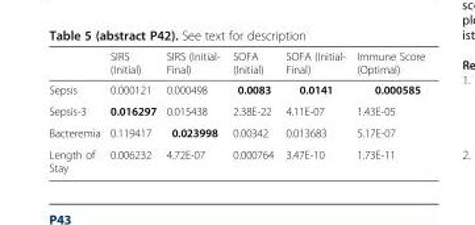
<table><thead><tr><td></td><td>SIRS (Initial)</td><td>SIRS (Initial- Final)</td><td>SOFA (Initial)</td><td>SOFA (Initial- Final)</td><td>Immune Score (Optimal)</td></tr></thead><tbody><tr><td>Sepsis</td><td>0.000121</td><td>0.000498</td><td>0.0083</td><td>0.0141</td><td>0.000585</td></tr><tr><td>Sepsis-3</td><td>0.016297</td><td>0.015438</td><td>2.38E-22</td><td>4.11E-07</td><td>1.43E-05</td></tr><tr><td>Bacteremia</td><td>0.119417</td><td>0.023998</td><td>0.00342</td><td>0.013683</td><td>5.17E-07</td></tr><tr><td>Length of Stay</td><td>0.006232</td><td>4.72E-07</td><td>0.000764</td><td>3.47E-10</td><td>1.73E-11</td></tr></tbody></table>